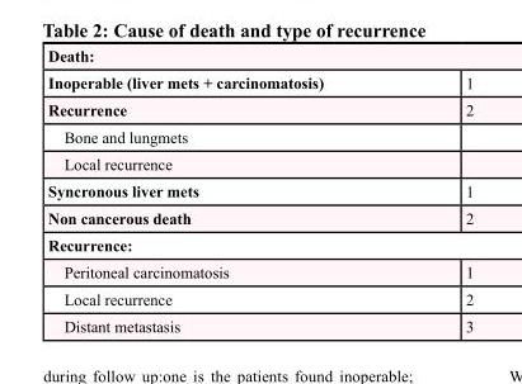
<table><tbody><tr><td colspan="2">Death:</td></tr><tr><td>Inoperable (liver mets + carcinomatosis)</td><td>1</td></tr><tr><td>Recurrence</td><td>2</td></tr><tr><td colspan="2">Bone and lungmets</td></tr><tr><td colspan="2">Local recurrence</td></tr><tr><td>Syncronous liver mets</td><td>1</td></tr><tr><td>Non cancerous death</td><td>2</td></tr><tr><td colspan="2">Recurrence:</td></tr><tr><td>Peritoneal carcinomatosis</td><td>1</td></tr><tr><td>Local recurrence</td><td>2</td></tr><tr><td>Distant metastasis</td><td>3</td></tr></tbody></table>